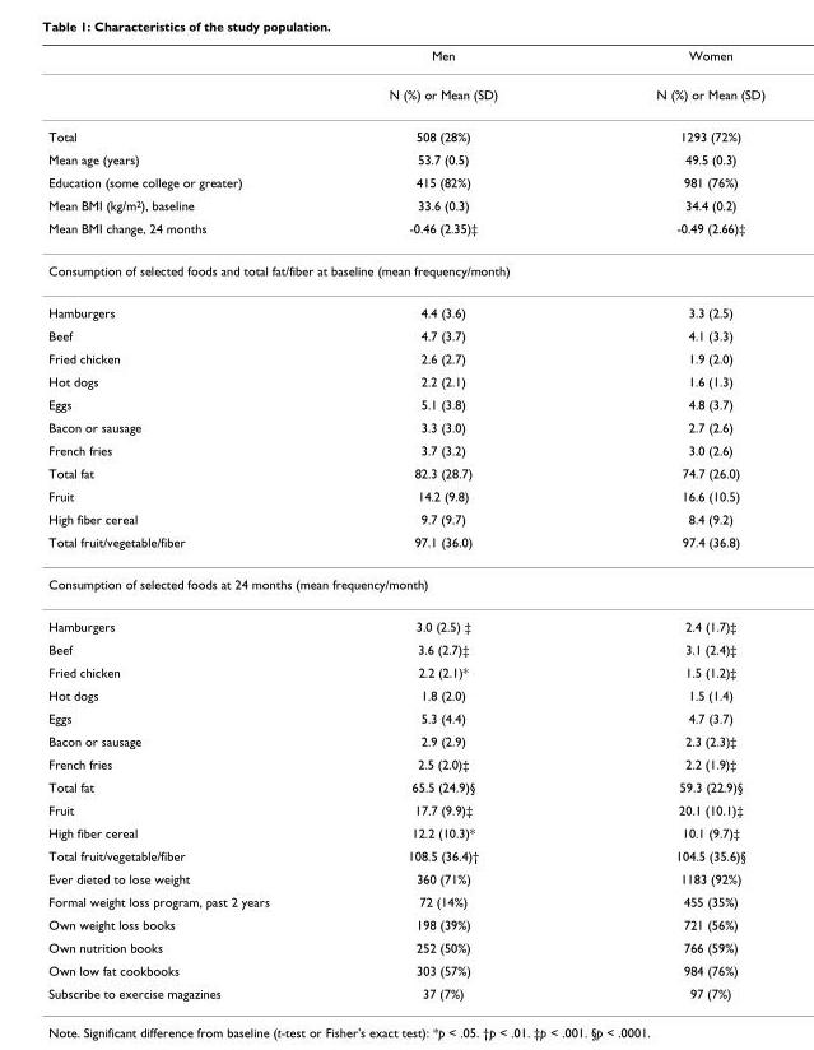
<table><thead><tr><td></td><td>Men</td><td>Women</td></tr></thead><tbody><tr><td></td><td>N (%) or Mean (SD)</td><td>N (%) or Mean (SD)</td></tr><tr><td>Total</td><td>508 (28%)</td><td>1293 (72%)</td></tr><tr><td>Mean age (years)</td><td>53.7 (0.5)</td><td>49.5 (0.3)</td></tr><tr><td>Education (some college or greater)</td><td>415 (82%)</td><td>981 (76%)</td></tr><tr><td>Mean BMI (kg/m<sup>2</sup>), baseline</td><td>33.6 (0.3)</td><td>34.4 (0.2)</td></tr><tr><td>Mean BMI change, 24 months</td><td>-0.46 (2.35)‡</td><td>-0.49 (2.66)‡</td></tr><tr><td colspan="3">Consumption of selected foods and total fat/fiber at baseline (mean frequency/month)</td></tr><tr><td>Hamburgers</td><td>4.4 (3.6)</td><td>3.3 (2.5)</td></tr><tr><td>Beef</td><td>4.7 (3.7)</td><td>4.1 (3.3)</td></tr><tr><td>Fried chicken</td><td>2.6 (2.7)</td><td>1.9 (2.0)</td></tr><tr><td>Hot dogs</td><td>2.2 (2.1)</td><td>1.6 (1.3)</td></tr><tr><td>Eggs</td><td>5.1 (3.8)</td><td>4.8 (3.7)</td></tr><tr><td>Bacon or sausage</td><td>3.3 (3.0)</td><td>2.7 (2.6)</td></tr><tr><td>French fries</td><td>3.7 (3.2)</td><td>3.0 (2.6)</td></tr><tr><td>Total fat</td><td>82.3 (28.7)</td><td>74.7 (26.0)</td></tr><tr><td>Fruit</td><td>14.2 (9.8)</td><td>16.6 (10.5)</td></tr><tr><td>High fiber cereal</td><td>9.7 (9.7)</td><td>8.4 (9.2)</td></tr><tr><td>Total fruit/vegetable/fiber</td><td>97.1 (36.0)</td><td>97.4 (36.8)</td></tr><tr><td colspan="3">Consumption of selected foods at 24 months (mean frequency/month)</td></tr><tr><td>Hamburgers</td><td>3.0 (2.5) ‡</td><td>2.4 (1.7)‡</td></tr><tr><td>Beef</td><td>3.6 (2.7)‡</td><td>3.1 (2.4)‡</td></tr><tr><td>Fried chicken</td><td>2.2 (2.1)*</td><td>1.5 (1.2)‡</td></tr><tr><td>Hot dogs</td><td>1.8 (2.0)</td><td>1.5 (1.4)</td></tr><tr><td>Eggs</td><td>5.3 (4.4)</td><td>4.7 (3.7)</td></tr><tr><td>Bacon or sausage</td><td>2.9 (2.9)</td><td>2.3 (2.3)‡</td></tr><tr><td>French fries</td><td>2.5 (2.0)‡</td><td>2.2 (1.9)‡</td></tr><tr><td>Total fat</td><td>65.5 (24.9)§</td><td>59.3 (22.9)§</td></tr><tr><td>Fruit</td><td>17.7 (9.9)‡</td><td>20.1 (10.1)‡</td></tr><tr><td>High fiber cereal</td><td>12.2 (10.3)*</td><td>10.1 (9.7)‡</td></tr><tr><td>Total fruit/vegetable/fiber</td><td>108.5 (36.4)†</td><td>104.5 (35.6)§</td></tr><tr><td>Ever dieted to lose weight</td><td>360 (71%)</td><td>1183 (92%)</td></tr><tr><td>Formal weight loss program, past 2 years</td><td>72 (14%)</td><td>455 (35%)</td></tr><tr><td>Own weight loss books</td><td>198 (39%)</td><td>721 (56%)</td></tr><tr><td>Own nutrition books</td><td>252 (50%)</td><td>766 (59%)</td></tr><tr><td>Own low fat cookbooks</td><td>303 (57%)</td><td>984 (76%)</td></tr><tr><td>Subscribe to exercise magazines</td><td>37 (7%)</td><td>97 (7%)</td></tr></tbody></table>